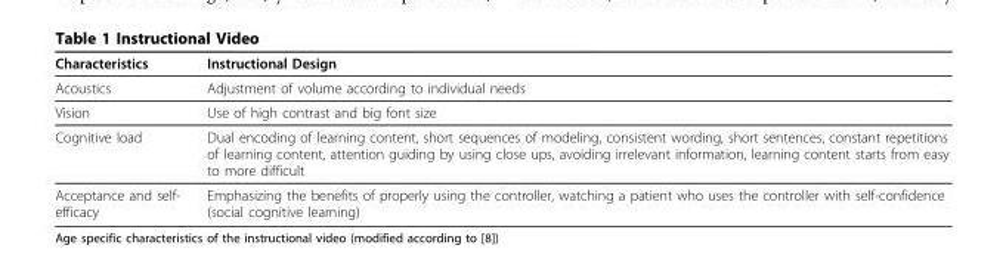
<table><thead><tr><td>Characteristics</td><td>Instructional Design</td></tr></thead><tbody><tr><td>Acoustics</td><td>Adjustment of volume according to individual needs</td></tr><tr><td>Vision</td><td>Use of high contrast and big font size</td></tr><tr><td>Cognitive load</td><td>Dual encoding of learning content, short sequences of modeling, consistent wording, short sentences, constant repetitions of learning content, attention guiding by using close ups, avoiding irrelevant information, learning content starts from easy to more difficult</td></tr><tr><td>Acceptance and self- efficacy</td><td>Emphasizing the benefits of properly using the controller, watching a patient who uses the controller with self-confidence (social cognitive learning)</td></tr></tbody></table>